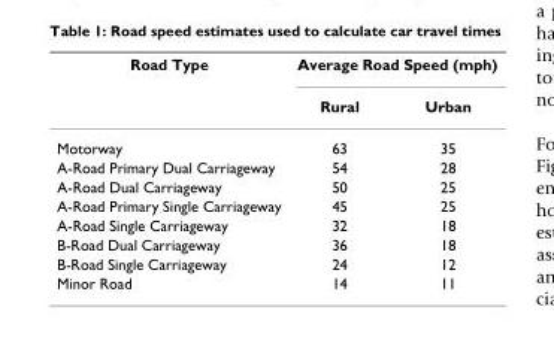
<table><thead><tr><td rowspan="2">Road Type</td><td colspan="2">Average Road Speed (mph)</td></tr><tr><td>Rural</td><td>Urban</td></tr></thead><tbody><tr><td>Motorway</td><td>63</td><td>35</td></tr><tr><td>A-Road Primary Dual Carriageway</td><td>54</td><td>28</td></tr><tr><td>A-Road Dual Carriageway</td><td>50</td><td>25</td></tr><tr><td>A-Road Primary Single Carriageway</td><td>45</td><td>25</td></tr><tr><td>A-Road Single Carriageway</td><td>32</td><td>18</td></tr><tr><td>B-Road Dual Carriageway</td><td>36</td><td>18</td></tr><tr><td>B-Road Single Carriageway</td><td>24</td><td>12</td></tr><tr><td>Minor Road</td><td>14</td><td>11</td></tr></tbody></table>